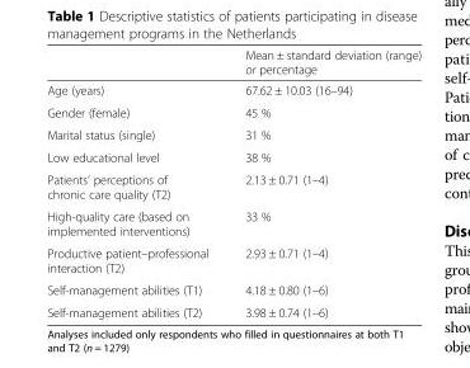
<table><thead><tr><td></td><td>Mean ± standard deviation (range) or percentage</td></tr></thead><tbody><tr><td>Age (years)</td><td>67.62 ± 10.03 (16–94)</td></tr><tr><td>Gender (female)</td><td>45 %</td></tr><tr><td>Marital status (single)</td><td>31 %</td></tr><tr><td>Low educational level</td><td>38 %</td></tr><tr><td>Patients’ perceptions of chronic care quality (T2)</td><td>2.13 ± 0.71 (1–4)</td></tr><tr><td>High-quality care (based on implemented interventions)</td><td>33 %</td></tr><tr><td>Productive patient–professional interaction (T2)</td><td>2.93 ± 0.71 (1–4)</td></tr><tr><td>Self-management abilities (T1)</td><td>4.18 ± 0.80 (1–6)</td></tr><tr><td>Self-management abilities (T2)</td><td>3.98 ± 0.74 (1–6)</td></tr></tbody></table>